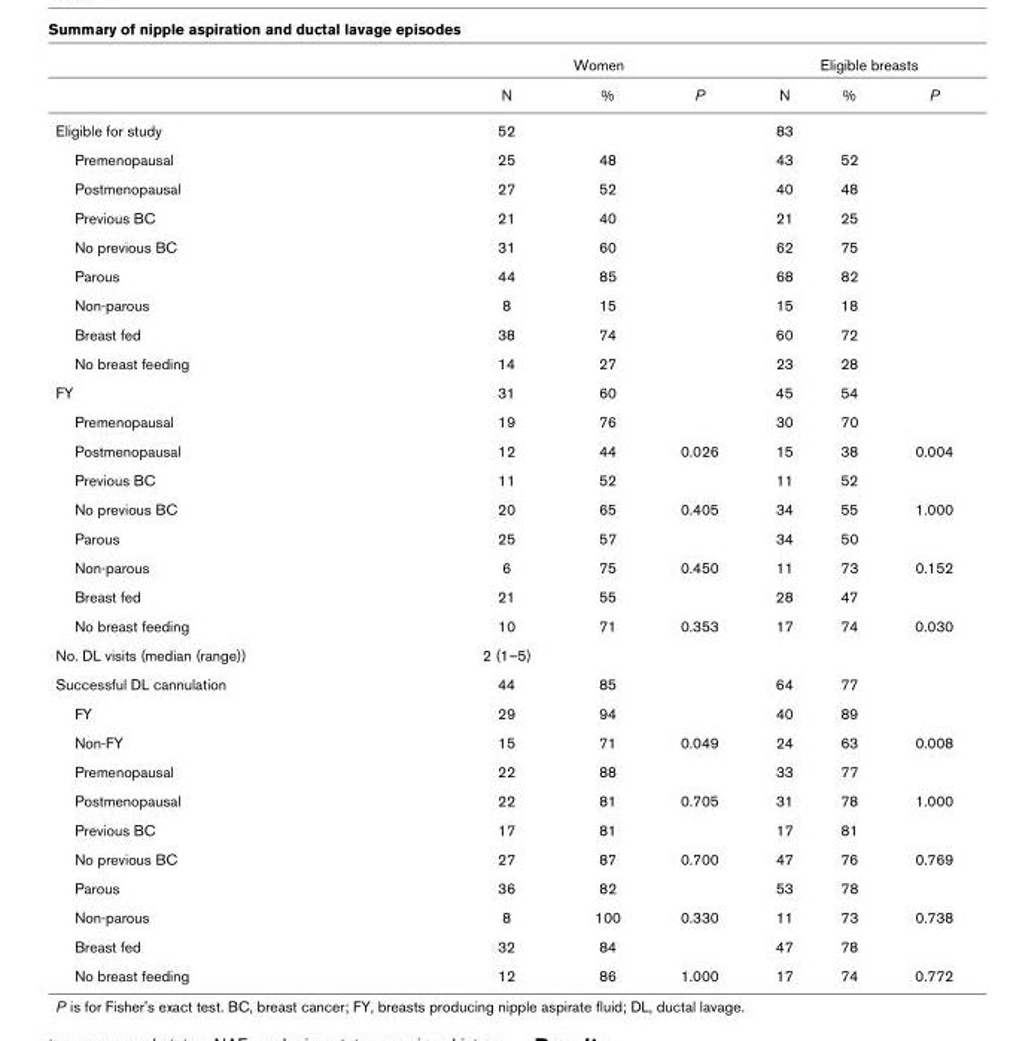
<table><thead><tr><td rowspan="2"></td><td colspan="3">Women</td><td colspan="3">Eligible breasts</td></tr><tr><td>N</td><td>%</td><td>P</td><td>N</td><td>%</td><td>P</td></tr></thead><tbody><tr><td>Eligible for study</td><td>52</td><td></td><td></td><td>83</td><td></td><td></td></tr><tr><td>Premenopausal</td><td>25</td><td>48</td><td></td><td>43</td><td>52</td><td></td></tr><tr><td>Postmenopausal</td><td>27</td><td>52</td><td></td><td>40</td><td>48</td><td></td></tr><tr><td>Previous BC</td><td>21</td><td>40</td><td></td><td>21</td><td>25</td><td></td></tr><tr><td>No previous BC</td><td>31</td><td>60</td><td></td><td>62</td><td>75</td><td></td></tr><tr><td>Parous</td><td>44</td><td>85</td><td></td><td>68</td><td>82</td><td></td></tr><tr><td>Non-parous</td><td>8</td><td>15</td><td></td><td>15</td><td>18</td><td></td></tr><tr><td>Breast fed</td><td>38</td><td>74</td><td></td><td>60</td><td>72</td><td></td></tr><tr><td>No breast feeding</td><td>14</td><td>27</td><td></td><td>23</td><td>28</td><td></td></tr><tr><td>FY</td><td>31</td><td>60</td><td></td><td>45</td><td>54</td><td></td></tr><tr><td>Premenopausal</td><td>19</td><td>76</td><td></td><td>30</td><td>70</td><td></td></tr><tr><td>Postmenopausal</td><td>12</td><td>44</td><td>0.026</td><td>15</td><td>38</td><td>0.004</td></tr><tr><td>Previous BC</td><td>11</td><td>52</td><td></td><td>11</td><td>52</td><td></td></tr><tr><td>No previous BC</td><td>20</td><td>65</td><td>0.405</td><td>34</td><td>55</td><td>1.000</td></tr><tr><td>Parous</td><td>25</td><td>57</td><td></td><td>34</td><td>50</td><td></td></tr><tr><td>Non-parous</td><td>6</td><td>75</td><td>0.450</td><td>11</td><td>73</td><td>0.152</td></tr><tr><td>Breast fed</td><td>21</td><td>55</td><td></td><td>28</td><td>47</td><td></td></tr><tr><td>No breast feeding</td><td>10</td><td>71</td><td>0.353</td><td>17</td><td>74</td><td>0.030</td></tr><tr><td>No. DL visits (median (range))</td><td>2 (1–5)</td><td></td><td></td><td></td><td></td><td></td></tr><tr><td>Successful DL cannulation</td><td>44</td><td>85</td><td></td><td>64</td><td>77</td><td></td></tr><tr><td>FY</td><td>29</td><td>94</td><td></td><td>40</td><td>89</td><td></td></tr><tr><td>Non-FY</td><td>15</td><td>71</td><td>0.049</td><td>24</td><td>63</td><td>0.008</td></tr><tr><td>Premenopausal</td><td>22</td><td>88</td><td></td><td>33</td><td>77</td><td></td></tr><tr><td>Postmenopausal</td><td>22</td><td>81</td><td>0.705</td><td>31</td><td>78</td><td>1.000</td></tr><tr><td>Previous BC</td><td>17</td><td>81</td><td></td><td>17</td><td>81</td><td></td></tr><tr><td>No previous BC</td><td>27</td><td>87</td><td>0.700</td><td>47</td><td>76</td><td>0.769</td></tr><tr><td>Parous</td><td>36</td><td>82</td><td></td><td>53</td><td>78</td><td></td></tr><tr><td>Non-parous</td><td>8</td><td>100</td><td>0.330</td><td>11</td><td>73</td><td>0.738</td></tr><tr><td>Breast fed</td><td>32</td><td>84</td><td></td><td>47</td><td>78</td><td></td></tr><tr><td>No breast feeding</td><td>12</td><td>86</td><td>1.000</td><td>17</td><td>74</td><td>0.772</td></tr></tbody></table>